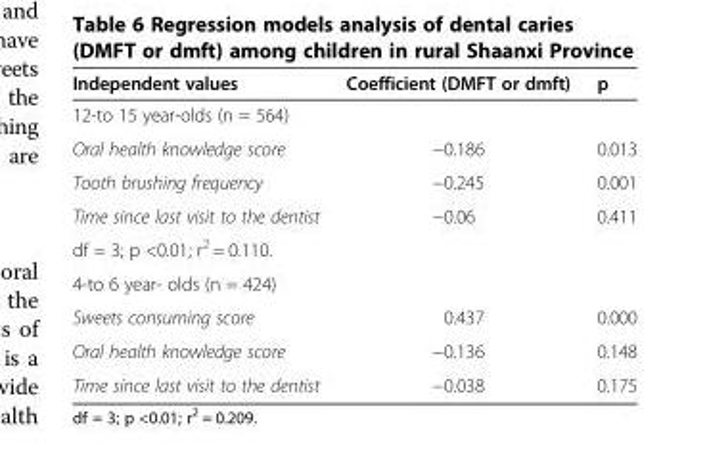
<table><thead><tr><td>Independent values</td><td>Coefficient (DMFT or dmft)</td><td>p</td></tr></thead><tbody><tr><td colspan="3">12-to 15 year-olds (n = 564)</td></tr><tr><td>Oral health knowledge score</td><td>−0.186</td><td>0.013</td></tr><tr><td>Tooth brushing frequency</td><td>−0.245</td><td>0.001</td></tr><tr><td>Time since last visit to the dentist</td><td>−0.06</td><td>0.411</td></tr><tr><td colspan="3">df = 3; p &lt;0.01; r<sup>2</sup> = 0.110.</td></tr><tr><td colspan="3">4-to 6 year- olds (n = 424)</td></tr><tr><td>Sweets consuming score</td><td>0.437</td><td>0.000</td></tr><tr><td>Oral health knowledge score</td><td>−0.136</td><td>0.148</td></tr><tr><td>Time since last visit to the dentist</td><td>−0.038</td><td>0.175</td></tr></tbody></table>